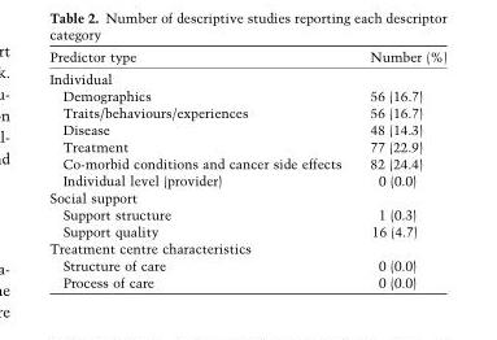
<table><thead><tr><td>Predictor type</td><td>Number (%)</td></tr></thead><tbody><tr><td colspan="2">Individual</td></tr><tr><td>Demographics</td><td>56 (16.7)</td></tr><tr><td>Traits/behaviours/experiences</td><td>56 (16.7)</td></tr><tr><td>Disease</td><td>48 (14.3)</td></tr><tr><td>Treatment</td><td>77 (22.9)</td></tr><tr><td>Co-morbid conditions and cancer side effects</td><td>82 (24.4)</td></tr><tr><td>Individual level (provider)</td><td>0 (0.0)</td></tr><tr><td colspan="2">Social support</td></tr><tr><td>Support structure</td><td>1 (0.3)</td></tr><tr><td>Support quality</td><td>16 (4.7)</td></tr><tr><td colspan="2">Treatment centre characteristics</td></tr><tr><td>Structure of care</td><td>0 (0.0)</td></tr><tr><td>Process of care</td><td>0 (0.0)</td></tr></tbody></table>